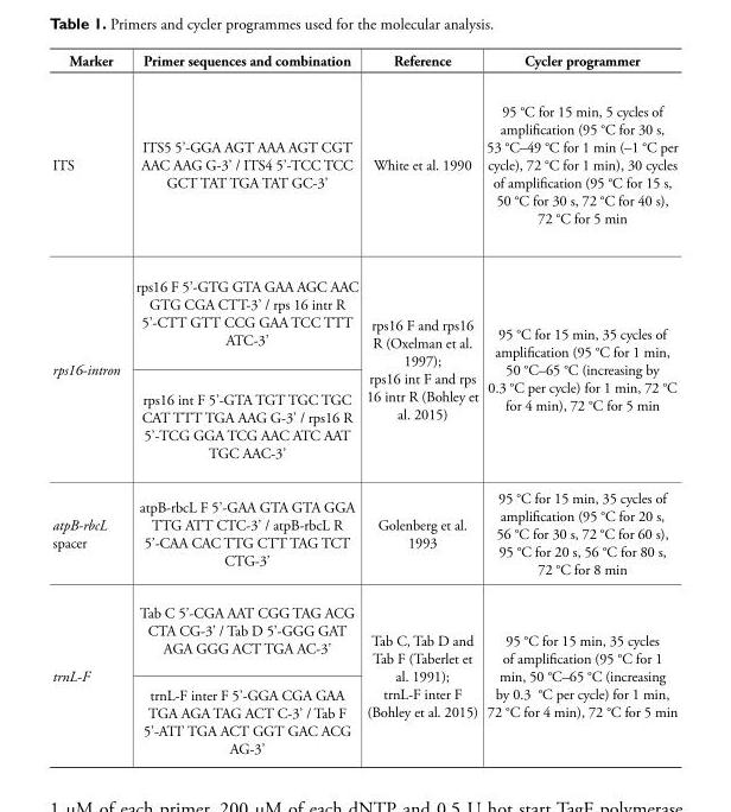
<table><thead><tr><td>Marker</td><td>Primer sequences and combination</td><td>Reference</td><td>Cycler programmer</td></tr></thead><tbody><tr><td>ITS</td><td>ITS5 5’-GGA AGT AAA AGT CGT AAC AAG G-3’ / ITS4 5’-TCC TCC GCT TAT TGA TAT GC-3’</td><td>White et al. 1990</td><td>95 °C for 15 min, 5 cycles of amplification (95 °C for 30 s, 53 °C–49 °C for 1 min (–1 °C per cycle), 72 °C for 1 min), 30 cycles of amplification (95 °C for 15 s, 50 °C for 30 s, 72 °C for 40 s), 72 °C for 5 min</td></tr><tr><td rowspan="2">rps16-intron</td><td>rps16 F 5’-GTG GTA GAA AGC AAC GTG CGA CTT-3’ / rps 16 intr R 5’-CTT GTT CCG GAA TCC TTT ATC-3’</td><td rowspan="2">rps16 F and rps16 R (Oxelman et al. 1997); rps16 int F and rps 16 intr R (Bohley et al. 2015)</td><td rowspan="2">95 °C for 15 min, 35 cycles of amplification (95 °C for 1 min, 50 °C–65 °C (increasing by 0.3 °C per cycle) for 1 min, 72 °C for 4 min), 72 °C for 5 min</td></tr><tr><td>rps16 int F 5’-GTA TGT TGC TGC CAT TTT TGA AAG G-3’ / rps16 R 5’-TCG GGA TCG AAC ATC AAT TGC AAC-3’</td></tr><tr><td>atpB-rbcL spacer</td><td>atpB-rbcL F 5’-GAA GTA GTA GGA TTG ATT CTC-3’ / atpB-rbcL R 5’-CAA CAC TTG CTT TAG TCT CTG-3’</td><td>Golenberg et al. 1993</td><td>95 °C for 15 min, 35 cycles of amplification (95 °C for 20 s, 56 °C for 30 s, 72 °C for 60 s), 95 °C for 20 s, 56 °C for 80 s, 72 °C for 8 min</td></tr><tr><td rowspan="2">trnL-F</td><td>Tab C 5’-CGA AAT CGG TAG ACG CTA CG-3’ / Tab D 5’-GGG GAT AGA GGG ACT TGA AC-3’</td><td rowspan="2">Tab C, Tab D and Tab F (Taberlet et al. 1991); trnL-F inter F (Bohley et al. 2015)</td><td rowspan="2">95 °C for 15 min, 35 cycles of amplification (95 °C for 1 min, 50 °C–65 °C (increasing by 0.3 °C per cycle) for 1 min, 72 °C for 4 min), 72 °C for 5 min</td></tr><tr><td>trnL-F inter F 5’-GGA CGA GAA TGA AGA TAG ACT C-3’ / Tab F 5’-ATI’ TGA ACT GGT GAC ACG AG-3’</td></tr></tbody></table>